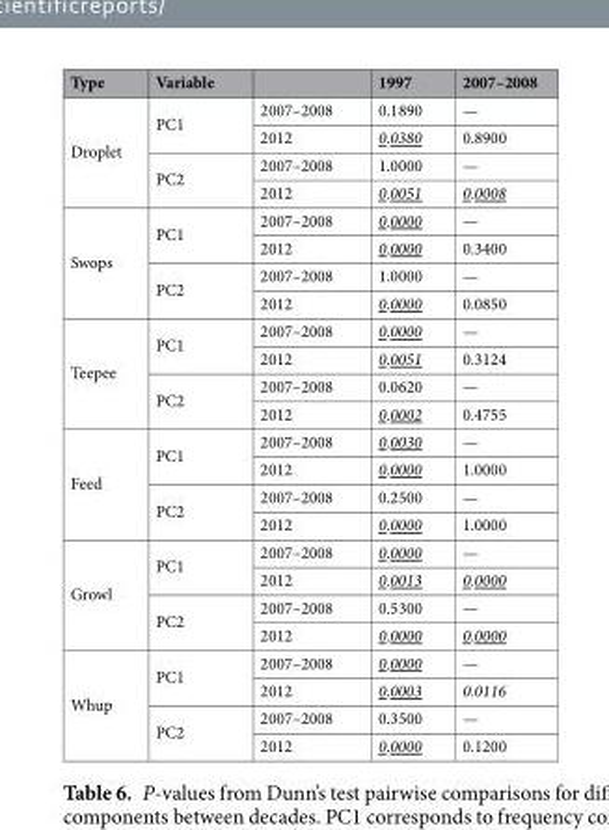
<table><thead><tr><td>Type</td><td>Variable</td><td></td><td>1997</td><td>2007–2008</td></tr></thead><tbody><tr><td rowspan="4">Droplet</td><td rowspan="2">PC1</td><td>2007–2008</td><td>0.1890</td><td>—</td></tr><tr><td>2012</td><td>0.0380</td><td>0.8900</td></tr><tr><td rowspan="2">PC2</td><td>2007–2008</td><td>1.0000</td><td>—</td></tr><tr><td>2012</td><td>0.0051</td><td>0.0008</td></tr><tr><td rowspan="4">Swops</td><td rowspan="2">PC1</td><td>2007–2008</td><td>0.0000</td><td>—</td></tr><tr><td>2012</td><td>0.0000</td><td>0.3400</td></tr><tr><td rowspan="2">PC2</td><td>2007–2008</td><td>1.0000</td><td>—</td></tr><tr><td>2012</td><td>0.0000</td><td>0.0850</td></tr><tr><td rowspan="4">Teepee</td><td rowspan="2">PC1</td><td>2007–2008</td><td>0.0000</td><td>—</td></tr><tr><td>2012</td><td>0.0051</td><td>0.3124</td></tr><tr><td rowspan="2">PC2</td><td>2007–2008</td><td>0.0620</td><td>—</td></tr><tr><td>2012</td><td>0.0002</td><td>0.4755</td></tr><tr><td rowspan="4">Feed</td><td rowspan="2">PC1</td><td>2007–2008</td><td>0.0030</td><td>—</td></tr><tr><td>2012</td><td>0.0000</td><td>1.0000</td></tr><tr><td rowspan="2">PC2</td><td>2007–2008</td><td>0.2500</td><td>—</td></tr><tr><td>2012</td><td>0.0000</td><td>1.0000</td></tr><tr><td rowspan="4">Growl</td><td rowspan="2">PC1</td><td>2007–2008</td><td>0.0000</td><td>—</td></tr><tr><td>2012</td><td>0.0013</td><td>0.0000</td></tr><tr><td rowspan="2">PC2</td><td>2007–2008</td><td>0.5300</td><td>—</td></tr><tr><td>2012</td><td>0.0000</td><td>0.0000</td></tr><tr><td rowspan="4">Whup</td><td rowspan="2">PC1</td><td>2007–2008</td><td>0.0000</td><td>—</td></tr><tr><td>2012</td><td>0.0003</td><td>0.0116</td></tr><tr><td rowspan="2">PC2</td><td>2007–2008</td><td>0.3500</td><td>—</td></tr><tr><td>2012</td><td>0.0000</td><td>0.1200</td></tr></tbody></table>